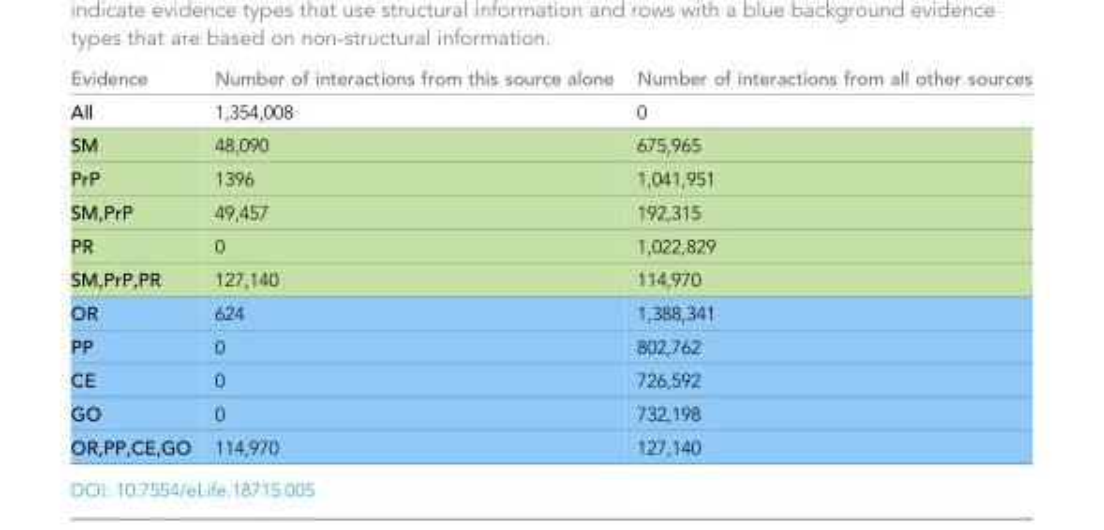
<table><thead><tr><td>Evidence</td><td>Number of interactions from this source alone</td><td>Number of interactions from all other sources</td></tr></thead><tbody><tr><td>All</td><td>1,354,008</td><td>0</td></tr><tr><td>SM</td><td>48,090</td><td>675,965</td></tr><tr><td>PrP</td><td>1396</td><td>1,041,951</td></tr><tr><td>SM,PrP</td><td>49,457</td><td>192,315</td></tr><tr><td>PR</td><td>0</td><td>1,022,829</td></tr><tr><td>SM,PrP,PR</td><td>127,140</td><td>114,970</td></tr><tr><td>OR</td><td>624</td><td>1,388,341</td></tr><tr><td>PP</td><td>0</td><td>802,762</td></tr><tr><td>CE</td><td>0</td><td>726,592</td></tr><tr><td>GO</td><td>0</td><td>732,198</td></tr><tr><td>OR,PP,CE,GO</td><td>114,970</td><td>127,140</td></tr></tbody></table>